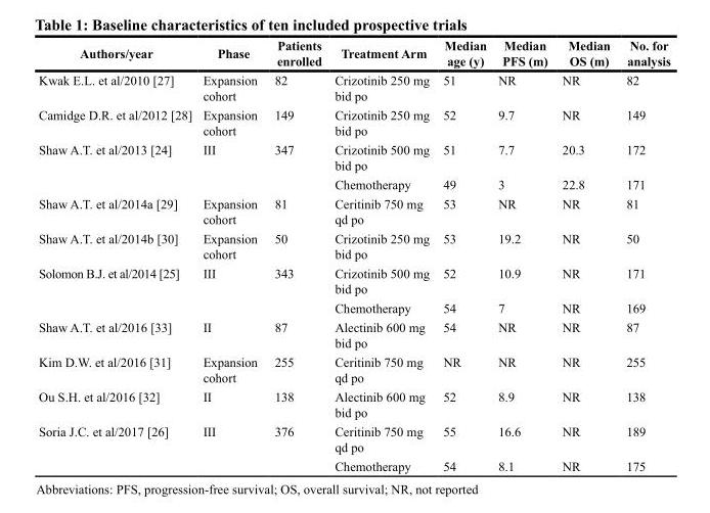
<table><thead><tr><td>Authors/year</td><td>Phase</td><td>Patients enrolled</td><td>Treatment Arm</td><td>Median age (y)</td><td>Median PFS (m)</td><td>Median OS (m)</td><td>No. for analysis</td></tr></thead><tbody><tr><td>Kwak E.L. et al/2010 [27]</td><td>Expansion cohort</td><td>82</td><td>Crizotinib 250 mg bid po</td><td>51</td><td>NR</td><td>NR</td><td>82</td></tr><tr><td>Camidge D.R. et al/2012 [28]</td><td>Expansion cohort</td><td>149</td><td>Crizotinib 250 mg bid po</td><td>52</td><td>9.7</td><td>NR</td><td>149</td></tr><tr><td rowspan="2">Shaw A.T. et al/2013 [24]</td><td>III</td><td>347</td><td>Crizotinib 500 mg bid po</td><td>51</td><td>7.7</td><td>20.3</td><td>172</td></tr><tr><td></td><td></td><td>Chemotherapy</td><td>49</td><td>3</td><td>22.8</td><td>171</td></tr><tr><td>Shaw A.T. et al/2014a [29]</td><td>Expansion cohort</td><td>81</td><td>Ceritinib 750 mg qd po</td><td>53</td><td>NR</td><td>NR</td><td>81</td></tr><tr><td>Shaw A.T. et al/2014b [30]</td><td>Expansion cohort</td><td>50</td><td>Crizotinib 250 mg bid po</td><td>53</td><td>19.2</td><td>NR</td><td>50</td></tr><tr><td rowspan="2">Solomon B.J. et al/2014 [25]</td><td>III</td><td>343</td><td>Crizotinib 500 mg bid po</td><td>52</td><td>10.9</td><td>NR</td><td>171</td></tr><tr><td></td><td></td><td>Chemotherapy</td><td>54</td><td>7</td><td>NR</td><td>169</td></tr><tr><td>Shaw A.T. et al/2016 [33]</td><td>II</td><td>87</td><td>Alectinib 600 mg bid po</td><td>54</td><td>NR</td><td>NR</td><td>87</td></tr><tr><td>Kim D.W. et al/2016 [31]</td><td>Expansion cohort</td><td>255</td><td>Ceritinib 750 mg qd po</td><td>NR</td><td>NR</td><td>NR</td><td>255</td></tr><tr><td>Ou S.H. et al/2016 [32]</td><td>II</td><td>138</td><td>Alectinib 600 mg bid po</td><td>52</td><td>8.9</td><td>NR</td><td>138</td></tr><tr><td rowspan="2">Soria J.C. et al/2017 [26]</td><td>III</td><td>376</td><td>Ceritinib 750 mg qd po</td><td>55</td><td>16.6</td><td>NR</td><td>189</td></tr><tr><td></td><td></td><td>Chemotherapy</td><td>54</td><td>8.1</td><td>NR</td><td>175</td></tr></tbody></table>